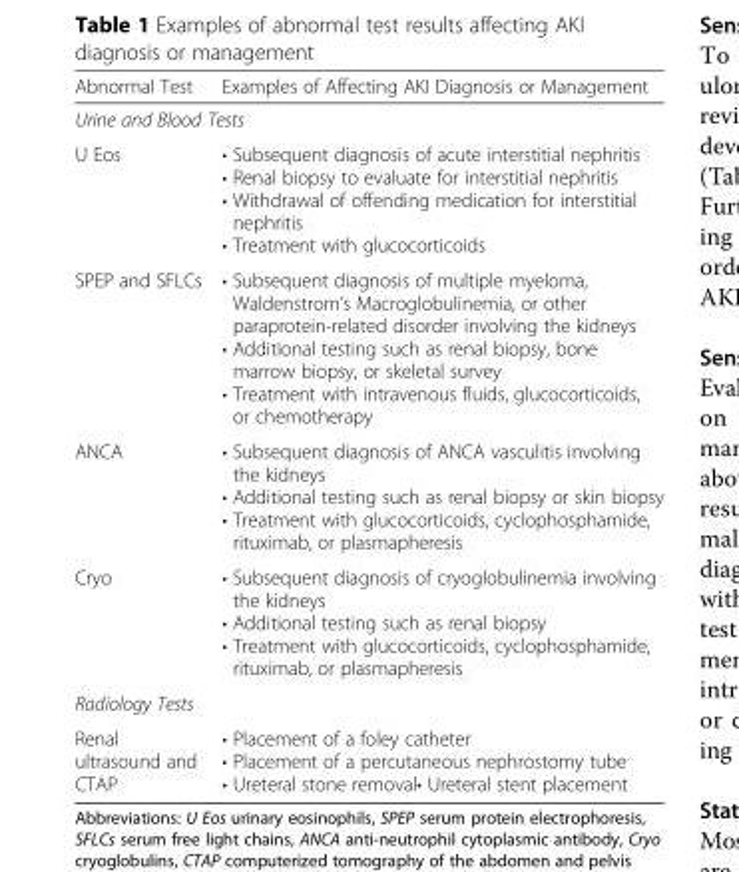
<table><thead><tr><td>Abnormal Test</td><td>Examples of Affecting AKI Diagnosis or Management</td></tr></thead><tbody><tr><td colspan="2">Urine and Blood Tests</td></tr><tr><td>U Eos</td><td>• Subsequent diagnosis of acute interstitial nephritis • Renal biopsy to evaluate for interstitial nephritis • Withdrawal of offending medication for interstitial nephritis • Treatment with glucocorticoids</td></tr><tr><td>SPEP and SFLCs</td><td>• Subsequent diagnosis of multiple myeloma, Waldenstrom’s Macroglobulinemia, or other paraprotein-related disorder involving the kidneys • Additional testing such as renal biopsy, bone marrow biopsy, or skeletal survey • Treatment with intravenous fluids, glucocorticoids, or chemotherapy</td></tr><tr><td>ANCA</td><td>• Subsequent diagnosis of ANCA vasculitis involving the kidneys • Additional testing such as renal biopsy or skin biopsy • Treatment with glucocorticoids, cyclophosphamide, rituximab, or plasmapheresis</td></tr><tr><td>Cryo</td><td>• Subsequent diagnosis of cryoglobulinemia involving the kidneys • Additional testing such as renal biopsy • Treatment with glucocorticoids, cyclophosphamide, rituximab, or plasmapheresis</td></tr><tr><td colspan="2">Radiology Tests</td></tr><tr><td>Renal ultrasound and CTAP</td><td>• Placement of a foley catheter • Placement of a percutaneous nephrostomy tube • Ureteral stone removal• Ureteral stent placement</td></tr></tbody></table>